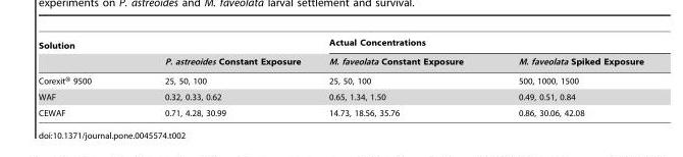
<table><thead><tr><td rowspan="2">Solution</td><td rowspan="2">P. astreoides Constant Exposure</td><td colspan="2">Actual Concentrations</td></tr><tr><td>M. faveolata Constant Exposure</td><td>M. faveolata Spiked Exposure</td></tr></thead><tbody><tr><td>Corexit® 9500</td><td>25, 50, 100</td><td>25, 50, 100</td><td>500, 1000, 1500</td></tr><tr><td>WAF</td><td>0.32, 0.33, 0.62</td><td>0.65, 1.34, 1.50</td><td>0.49, 0.51, 0.84</td></tr><tr><td>CEWAF</td><td>0.71, 4.28, 30.99</td><td>14.73, 18.56, 35.76</td><td>0.86, 30.06, 42.08</td></tr></tbody></table>